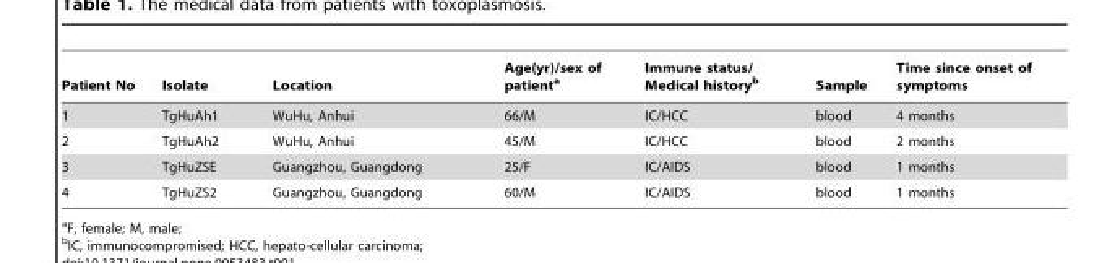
<table><thead><tr><td>Patient No</td><td>Isolate</td><td>Location</td><td>Age(yr)/sex of patient<sup>a</sup></td><td>Immune status/ Medical history<sup>b</sup></td><td>Sample</td><td>Time since onset of symptoms</td></tr></thead><tbody><tr><td>1</td><td>TgHuAh1</td><td>WuHu, Anhui</td><td>66/M</td><td>IC/HCC</td><td>blood</td><td>4 months</td></tr><tr><td>2</td><td>TgHuAh2</td><td>WuHu, Anhui</td><td>45/M</td><td>IC/HCC</td><td>blood</td><td>2 months</td></tr><tr><td>3</td><td>TgHuZSE</td><td>Guangzhou, Guangdong</td><td>25/F</td><td>IC/AIDS</td><td>blood</td><td>1 months</td></tr><tr><td>4</td><td>TgHuZS2</td><td>Guangzhou, Guangdong</td><td>60/M</td><td>IC/AIDS</td><td>blood</td><td>1 months</td></tr></tbody></table>